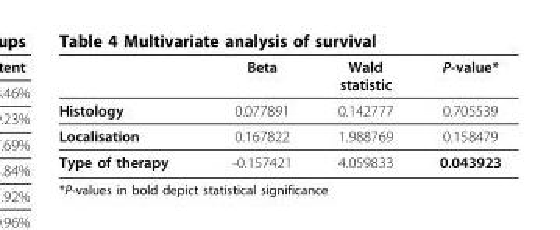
<table><thead><tr><td></td><td>Beta</td><td>Wald statistic</td><td>P-value*</td></tr></thead><tbody><tr><td>Histology</td><td>0.077891</td><td>0.142777</td><td>0.705539</td></tr><tr><td>Localisation</td><td>0.167822</td><td>1.988769</td><td>0.158479</td></tr><tr><td>Type of therapy</td><td>-0.157421</td><td>4.059833</td><td>0.043923</td></tr></tbody></table>